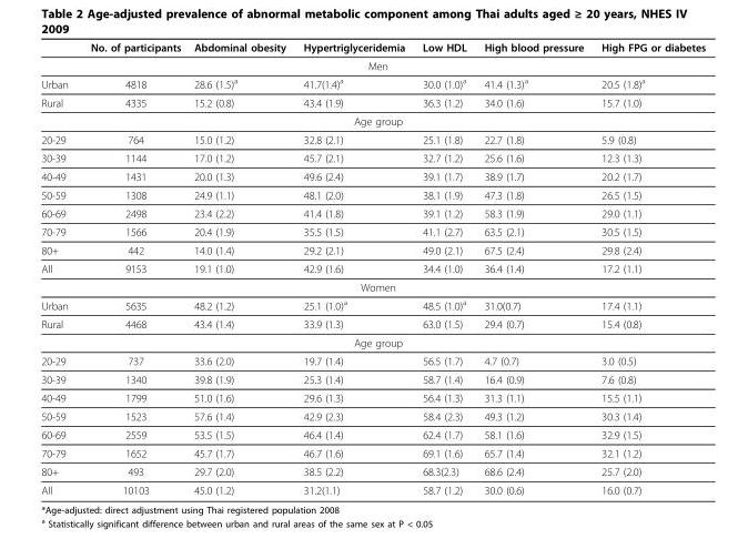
<table><thead><tr><td></td><td>No. of participants</td><td>Abdominal obesity</td><td>Hypertriglyceridemia</td><td>Low HDL</td><td>High blood pressure</td><td>High FPG or diabetes</td></tr></thead><tbody><tr><td colspan="7">Men</td></tr><tr><td>Urban</td><td>4818</td><td>28.6 (1.5)<sup>a</sup></td><td>41.7(1.4)<sup>a</sup></td><td>30.0 (1.0)<sup>a</sup></td><td>41.4 (1.3)<sup>a</sup></td><td>20.5 (1.8)<sup>a</sup></td></tr><tr><td>Rural</td><td>4335</td><td>15.2 (0.8)</td><td>43.4 (1.9)</td><td>36.3 (1.2)</td><td>34.0 (1.6)</td><td>15.7 (1.0)</td></tr><tr><td colspan="7">Age group</td></tr><tr><td>20-29</td><td>764</td><td>15.0 (1.2)</td><td>32.8 (2.1)</td><td>25.1 (1.8)</td><td>22.7 (1.8)</td><td>5.9 (0.8)</td></tr><tr><td>30-39</td><td>1144</td><td>17.0 (1.2)</td><td>45.7 (2.1)</td><td>32.7 (1.2)</td><td>25.6 (1.6)</td><td>12.3 (1.3)</td></tr><tr><td>40-49</td><td>1431</td><td>20.0 (1.3)</td><td>49.6 (2.4)</td><td>39.1 (1.7)</td><td>38.9 (1.7)</td><td>20.2 (1.7)</td></tr><tr><td>50-59</td><td>1308</td><td>24.9 (1.1)</td><td>48.1 (2.0)</td><td>38.1 (1.9)</td><td>47.3 (1.8)</td><td>26.5 (1.5)</td></tr><tr><td>60-69</td><td>2498</td><td>23.4 (2.2)</td><td>41.4 (1.8)</td><td>39.1 (1.2)</td><td>58.3 (1.9)</td><td>29.0 (1.1)</td></tr><tr><td>70-79</td><td>1566</td><td>20.4 (1.9)</td><td>35.5 (1.5)</td><td>41.1 (2.7)</td><td>63.5 (2.1)</td><td>30.5 (1.5)</td></tr><tr><td>80+</td><td>442</td><td>14.0 (1.4)</td><td>29.2 (2.1)</td><td>49.0 (2.1)</td><td>67.5 (2.4)</td><td>29.8 (2.4)</td></tr><tr><td>All</td><td>9153</td><td>19.1 (1.0)</td><td>42.9 (1.6)</td><td>34.4 (1.0)</td><td>36.4 (1.4)</td><td>17.2 (1.1)</td></tr><tr><td colspan="7">Women</td></tr><tr><td>Urban</td><td>5635</td><td>48.2 (1.2)</td><td>25.1 (1.0)<sup>a</sup></td><td>48.5 (1.0)<sup>a</sup></td><td>31.0(0.7)</td><td>17.4 (1.1)</td></tr><tr><td>Rural</td><td>4468</td><td>43.4 (1.4)</td><td>33.9 (1.3)</td><td>63.0 (1.5)</td><td>29.4 (0.7)</td><td>15.4 (0.8)</td></tr><tr><td colspan="7">Age group</td></tr><tr><td>20-29</td><td>737</td><td>33.6 (2.0)</td><td>19.7 (1.4)</td><td>56.5 (1.7)</td><td>4.7 (0.7)</td><td>3.0 (0.5)</td></tr><tr><td>30-39</td><td>1340</td><td>39.8 (1.9)</td><td>25.3 (1.4)</td><td>58.7 (1.4)</td><td>16.4 (0.9)</td><td>7.6 (0.8)</td></tr><tr><td>40-49</td><td>1799</td><td>51.0 (1.6)</td><td>29.6 (1.3)</td><td>56.4 (1.3)</td><td>31.3 (1.1)</td><td>15.5 (1.1)</td></tr><tr><td>50-59</td><td>1523</td><td>57.6 (1.4)</td><td>42.9 (2.3)</td><td>58.4 (2.3)</td><td>49.3 (1.2)</td><td>30.3 (1.4)</td></tr><tr><td>60-69</td><td>2559</td><td>53.5 (1.5)</td><td>46.4 (1.4)</td><td>62.4 (1.7)</td><td>58.1 (1.6)</td><td>32.9 (1.5)</td></tr><tr><td>70-79</td><td>1652</td><td>45.7 (1.7)</td><td>46.7 (1.6)</td><td>69.1 (1.6)</td><td>65.7 (1.4)</td><td>32.1 (1.2)</td></tr><tr><td>80+</td><td>493</td><td>29.7 (2.0)</td><td>38.5 (2.2)</td><td>68.3(2.3)</td><td>68.6 (2.4)</td><td>25.7 (2.0)</td></tr><tr><td>All</td><td>10103</td><td>45.0 (1.2)</td><td>31.2(1.1)</td><td>58.7 (1.2)</td><td>30.0 (0.6)</td><td>16.0 (0.7)</td></tr></tbody></table>